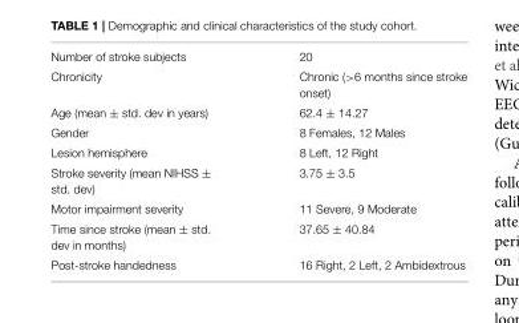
<table><tbody><tr><td>Number of stroke subjects</td><td>20</td></tr><tr><td>Chronicity</td><td>Chronic (&gt;6 months since stroke onset)</td></tr><tr><td>Age (mean ± std. dev in years)</td><td>62.4 ± 14.27</td></tr><tr><td>Gender</td><td>8 Females, 12 Males</td></tr><tr><td>Lesion hemisphere</td><td>8 Left, 12 Right</td></tr><tr><td>Stroke severity (mean NIHSS ± std. dev)</td><td>3.75 ± 3.5</td></tr><tr><td>Motor impairment severity</td><td>11 Severe, 9 Moderate</td></tr><tr><td>Time since stroke (mean ± std. dev in months)</td><td>37.65 ± 40.84</td></tr><tr><td>Post-stroke handedness</td><td>16 Right, 2 Left, 2 Ambidextrous</td></tr></tbody></table>